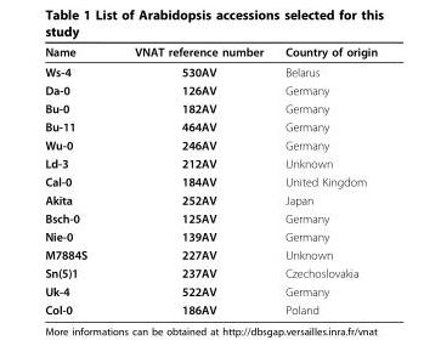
<table><thead><tr><td>Name</td><td>VNAT reference number</td><td>Country of origin</td></tr></thead><tbody><tr><td>Ws-4</td><td>530AV</td><td>Belarus</td></tr><tr><td>Da-0</td><td>126AV</td><td>Germany</td></tr><tr><td>Bu-0</td><td>182AV</td><td>Germany</td></tr><tr><td>Bu-11</td><td>464AV</td><td>Germany</td></tr><tr><td>Wu-0</td><td>246AV</td><td>Germany</td></tr><tr><td>Ld-3</td><td>212AV</td><td>Unknown</td></tr><tr><td>Cal-0</td><td>184AV</td><td>United Kingdom</td></tr><tr><td>Akita</td><td>252AV</td><td>Japan</td></tr><tr><td>Bsch-0</td><td>125AV</td><td>Germany</td></tr><tr><td>Nie-0</td><td>139AV</td><td>Germany</td></tr><tr><td>M7884S</td><td>227AV</td><td>Unknown</td></tr><tr><td>Sn(5)1</td><td>237AV</td><td>Czechoslovakia</td></tr><tr><td>Uk-4</td><td>522AV</td><td>Germany</td></tr><tr><td>Col-0</td><td>186AV</td><td>Poland</td></tr></tbody></table>